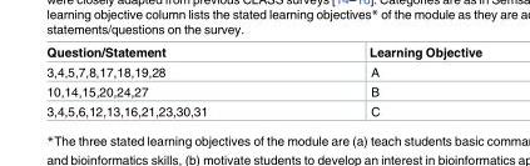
<table><thead><tr><td>Question/Statement</td><td>Learning Objective</td></tr></thead><tbody><tr><td>3,4,5,7,8,17,18,19,28</td><td>A</td></tr><tr><td>10,14,15,20,24,27</td><td>B</td></tr><tr><td>3,4,5,6,12,13,16,21,23,30,31</td><td>C</td></tr></tbody></table>